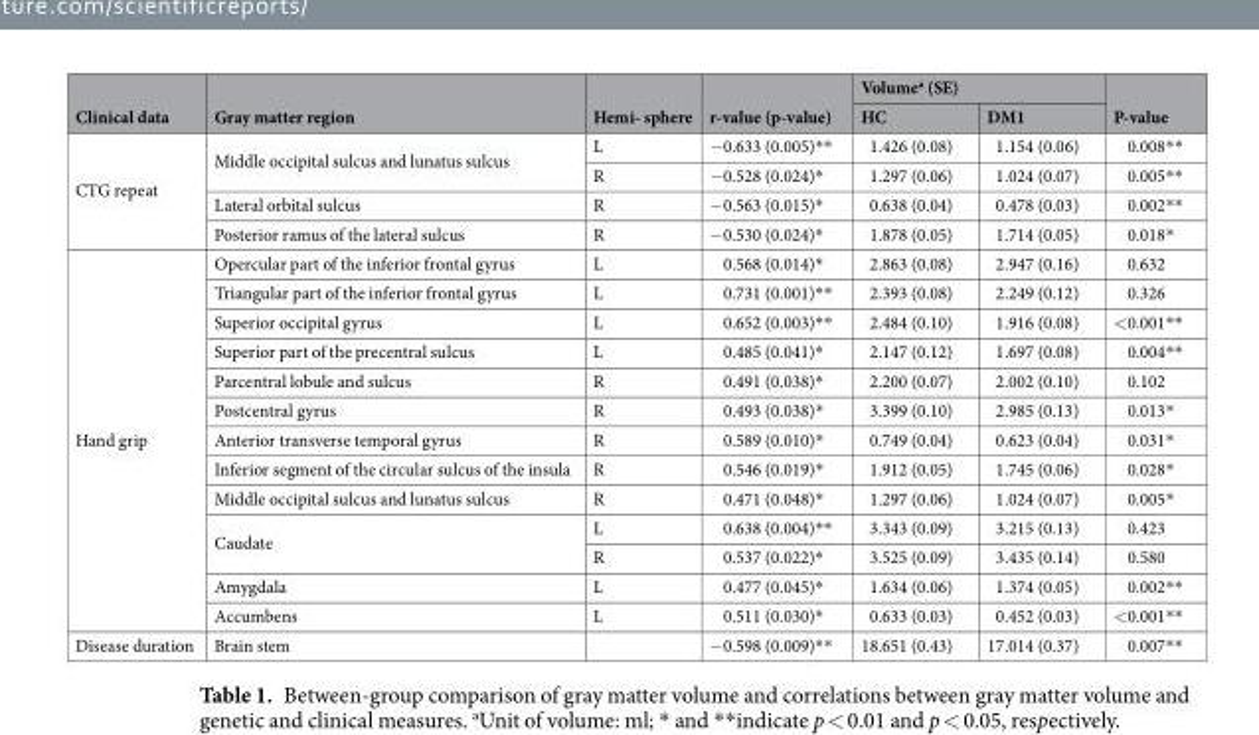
<table><thead><tr><td rowspan="2">Clinical data</td><td rowspan="2">Gray matter region</td><td rowspan="2">Hemi- sphere</td><td rowspan="2">r-value (p-value)</td><td colspan="2">Volume<sup>a</sup> (SE)</td><td rowspan="2">P-value</td></tr><tr><td>HC</td><td>DM1</td></tr></thead><tbody><tr><td rowspan="4">CTG repeat</td><td rowspan="2">Middle occipital sulcus and lunatus sulcus</td><td>L</td><td>−0.633 (0.005)**</td><td>1.426 (0.08)</td><td>1.154 (0.06)</td><td>0.008**</td></tr><tr><td>R</td><td>−0.528 (0.024)*</td><td>1.297 (0.06)</td><td>1.024 (0.07)</td><td>0.005**</td></tr><tr><td>Lateral orbital sulcus</td><td>R</td><td>−0.563 (0.015)*</td><td>0.638 (0.04)</td><td>0.478 (0.03)</td><td>0.002**</td></tr><tr><td>Posterior ramus of the lateral sulcus</td><td>R</td><td>−0.530 (0.024)*</td><td>1.878 (0.05)</td><td>1.714 (0.05)</td><td>0.018*</td></tr><tr><td rowspan="13">Hand grip</td><td>Opercular part of the inferior frontal gyrus</td><td>L</td><td>0.568 (0.014)*</td><td>2.863 (0.08)</td><td>2.947 (0.16)</td><td>0.632</td></tr><tr><td>Triangular part of the inferior frontal gyrus</td><td>L</td><td>0.731 (0.001)**</td><td>2.393 (0.08)</td><td>2.249 (0.12)</td><td>0.326</td></tr><tr><td>Superior occipital gyrus</td><td>L</td><td>0.652 (0.003)**</td><td>2.484 (0.10)</td><td>1.916 (0.08)</td><td>&lt;0.001**</td></tr><tr><td>Superior part of the precentral sulcus</td><td>L</td><td>0.485 (0.041)*</td><td>2.147 (0.12)</td><td>1.697 (0.08)</td><td>0.004**</td></tr><tr><td>Parcentral lobule and sulcus</td><td>R</td><td>0.491 (0.038)*</td><td>2.200 (0.07)</td><td>2.002 (0.10)</td><td>0.102</td></tr><tr><td>Postcentral gyrus</td><td>R</td><td>0.493 (0.038)*</td><td>3.399 (0.10)</td><td>2.985 (0.13)</td><td>0.013*</td></tr><tr><td>Anterior transverse temporal gyrus</td><td>R</td><td>0.589 (0.010)*</td><td>0.749 (0.04)</td><td>0.623 (0.04)</td><td>0.031*</td></tr><tr><td>Inferior segment of the circular sulcus of the insula</td><td>R</td><td>0.546 (0.019)*</td><td>1.912 (0.05)</td><td>1.745 (0.06)</td><td>0.028*</td></tr><tr><td>Middle occipital sulcus and lunatus sulcus</td><td>R</td><td>0.471 (0.048)*</td><td>1.297 (0.06)</td><td>1.024 (0.07)</td><td>0.005*</td></tr><tr><td rowspan="2">Caudate</td><td>L</td><td>0.638 (0.004)**</td><td>3.343 (0.09)</td><td>3.215 (0.13)</td><td>0.423</td></tr><tr><td>R</td><td>0.537 (0.022)*</td><td>3.525 (0.09)</td><td>3.435 (0.14)</td><td>0.580</td></tr><tr><td>Amygdala</td><td>L</td><td>0.477 (0.045)*</td><td>1.634 (0.06)</td><td>1.374 (0.05)</td><td>0.002**</td></tr><tr><td>Accumbens</td><td>L</td><td>0.511 (0.030)*</td><td>0.633 (0.03)</td><td>0.452 (0.03)</td><td>&lt;0.001**</td></tr><tr><td>Disease duration</td><td>Brain stem</td><td></td><td>−0.598 (0.009)**</td><td>18.651 (0.43)</td><td>17.014 (0.37)</td><td>0.007**</td></tr></tbody></table>